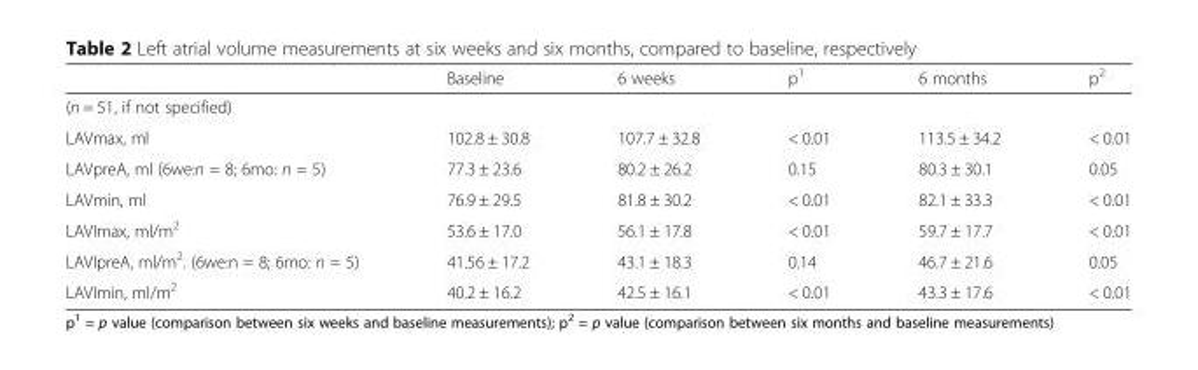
<table><thead><tr><td></td><td>Baseline</td><td>6 weeks</td><td>p<sup>1</sup></td><td>6 months</td><td>p<sup>2</sup></td></tr></thead><tbody><tr><td colspan="6">(n = 51, if not specified)</td></tr><tr><td>LAVmax, ml</td><td>102.8 ± 30.8</td><td>107.7 ± 32.8</td><td>&lt; 0.01</td><td>113.5 ± 34.2</td><td>&lt; 0.01</td></tr><tr><td>LAVpreA, ml (6we:n = 8; 6mo: n = 5)</td><td>77.3 ± 23.6</td><td>80.2 ± 26.2</td><td>0.15</td><td>80.3 ± 30.1</td><td>0.05</td></tr><tr><td>LAVmin, ml</td><td>76.9 ± 29.5</td><td>81.8 ± 30.2</td><td>&lt; 0.01</td><td>82.1 ± 33.3</td><td>&lt; 0.01</td></tr><tr><td>LAVImax, ml/m<sup>2</sup></td><td>53.6 ± 17.0</td><td>56.1 ± 17.8</td><td>&lt; 0.01</td><td>59.7 ± 17.7</td><td>&lt; 0.01</td></tr><tr><td>LAVIpreA, ml/m<sup>2</sup>. (6we:n = 8; 6mo: n = 5)</td><td>41.56 ± 17.2</td><td>43.1 ± 18.3</td><td>0.14</td><td>46.7 ± 21.6</td><td>0.05</td></tr><tr><td>LAVImin, ml/m<sup>2</sup></td><td>40.2 ± 16.2</td><td>42.5 ± 16.1</td><td>&lt; 0.01</td><td>43.3 ± 17.6</td><td>&lt; 0.01</td></tr></tbody></table>